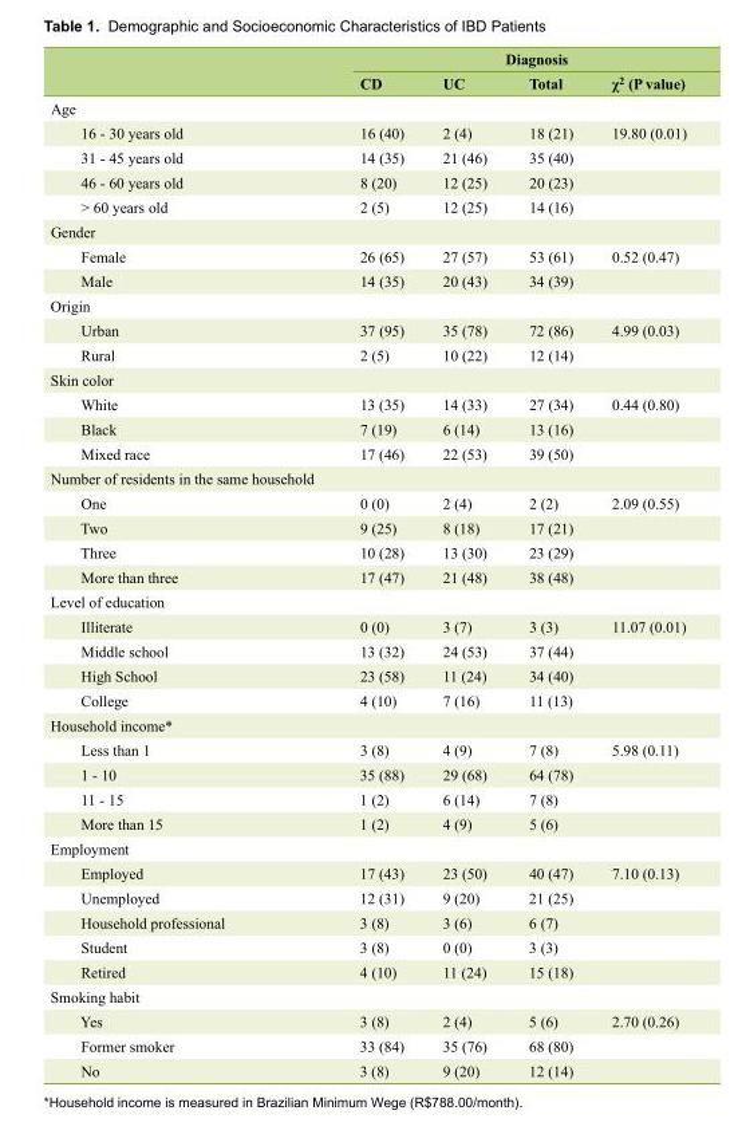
<table><thead><tr><td rowspan="2"></td><td colspan="4">Diagnosis</td></tr><tr><td>CD</td><td>UC</td><td>Total</td><td>χ<sup>2</sup> (P value)</td></tr></thead><tbody><tr><td colspan="5">Age</td></tr><tr><td>16 - 30 years old</td><td>16 (40)</td><td>2 (4)</td><td>18 (21)</td><td>19.80 (0.01)</td></tr><tr><td>31 - 45 years old</td><td>14 (35)</td><td>21 (46)</td><td>35 (40)</td><td></td></tr><tr><td>46 - 60 years old</td><td>8 (20)</td><td>12 (25)</td><td>20 (23)</td><td></td></tr><tr><td>&gt; 60 years old</td><td>2 (5)</td><td>12 (25)</td><td>14 (16)</td><td></td></tr><tr><td colspan="5">Gender</td></tr><tr><td>Female</td><td>26 (65)</td><td>27 (57)</td><td>53 (61)</td><td>0.52 (0.47)</td></tr><tr><td>Male</td><td>14 (35)</td><td>20 (43)</td><td>34 (39)</td><td></td></tr><tr><td colspan="5">Origin</td></tr><tr><td>Urban</td><td>37 (95)</td><td>35 (78)</td><td>72 (86)</td><td>4.99 (0.03)</td></tr><tr><td>Rural</td><td>2 (5)</td><td>10 (22)</td><td>12 (14)</td><td></td></tr><tr><td colspan="5">Skin color</td></tr><tr><td>White</td><td>13 (35)</td><td>14 (33)</td><td>27 (34)</td><td>0.44 (0.80)</td></tr><tr><td>Black</td><td>7 (19)</td><td>6 (14)</td><td>13 (16)</td><td></td></tr><tr><td>Mixed race</td><td>17 (46)</td><td>22 (53)</td><td>39 (50)</td><td></td></tr><tr><td colspan="5">Number of residents in the same household</td></tr><tr><td>One</td><td>0 (0)</td><td>2 (4)</td><td>2 (2)</td><td>2.09 (0.55)</td></tr><tr><td>Two</td><td>9 (25)</td><td>8 (18)</td><td>17 (21)</td><td></td></tr><tr><td>Three</td><td>10 (28)</td><td>13 (30)</td><td>23 (29)</td><td></td></tr><tr><td>More than three</td><td>17 (47)</td><td>21 (48)</td><td>38 (48)</td><td></td></tr><tr><td colspan="5">Level of education</td></tr><tr><td>Illiterate</td><td>0 (0)</td><td>3 (7)</td><td>3 (3)</td><td>11.07 (0.01)</td></tr><tr><td>Middle school</td><td>13 (32)</td><td>24 (53)</td><td>37 (44)</td><td></td></tr><tr><td>High School</td><td>23 (58)</td><td>11 (24)</td><td>34 (40)</td><td></td></tr><tr><td>College</td><td>4 (10)</td><td>7 (16)</td><td>11 (13)</td><td></td></tr><tr><td colspan="5">Household income*</td></tr><tr><td>Less than 1</td><td>3 (8)</td><td>4 (9)</td><td>7 (8)</td><td>5.98 (0.11)</td></tr><tr><td>1 - 10</td><td>35 (88)</td><td>29 (68)</td><td>64 (78)</td><td></td></tr><tr><td>11 - 15</td><td>1 (2)</td><td>6 (14)</td><td>7 (8)</td><td></td></tr><tr><td>More than 15</td><td>1 (2)</td><td>4 (9)</td><td>5 (6)</td><td></td></tr><tr><td colspan="5">Employment</td></tr><tr><td>Employed</td><td>17 (43)</td><td>23 (50)</td><td>40 (47)</td><td>7.10 (0.13)</td></tr><tr><td>Unemployed</td><td>12 (31)</td><td>9 (20)</td><td>21 (25)</td><td></td></tr><tr><td>Household professional</td><td>3 (8)</td><td>3 (6)</td><td>6 (7)</td><td></td></tr><tr><td>Student</td><td>3 (8)</td><td>0 (0)</td><td>3 (3)</td><td></td></tr><tr><td>Retired</td><td>4 (10)</td><td>11 (24)</td><td>15 (18)</td><td></td></tr><tr><td colspan="5">Smoking habit</td></tr><tr><td>Yes</td><td>3 (8)</td><td>2 (4)</td><td>5 (6)</td><td>2.70 (0.26)</td></tr><tr><td>Former smoker</td><td>33 (84)</td><td>35 (76)</td><td>68 (80)</td><td></td></tr><tr><td>No</td><td>3 (8)</td><td>9 (20)</td><td>12 (14)</td><td></td></tr></tbody></table>